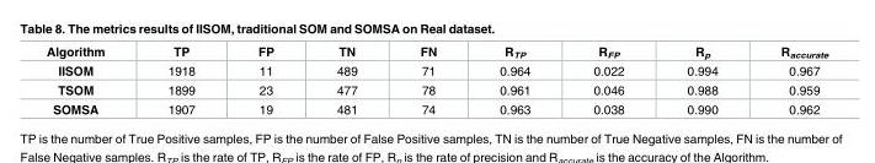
<table><thead><tr><td>Algorithm</td><td>TP</td><td>FP</td><td>TN</td><td>FN</td><td>R<sub>TP</sub></td><td>R<sub>FP</sub></td><td>R<sub>p</sub></td><td>R<sub>accurate</sub></td></tr></thead><tbody><tr><td>IISOM</td><td>1918</td><td>11</td><td>489</td><td>71</td><td>0.964</td><td>0.022</td><td>0.994</td><td>0.967</td></tr><tr><td>TSOM</td><td>1899</td><td>23</td><td>477</td><td>78</td><td>0.961</td><td>0.046</td><td>0.988</td><td>0.959</td></tr><tr><td>SOMSA</td><td>1907</td><td>19</td><td>481</td><td>74</td><td>0.963</td><td>0.038</td><td>0.990</td><td>0.962</td></tr></tbody></table>